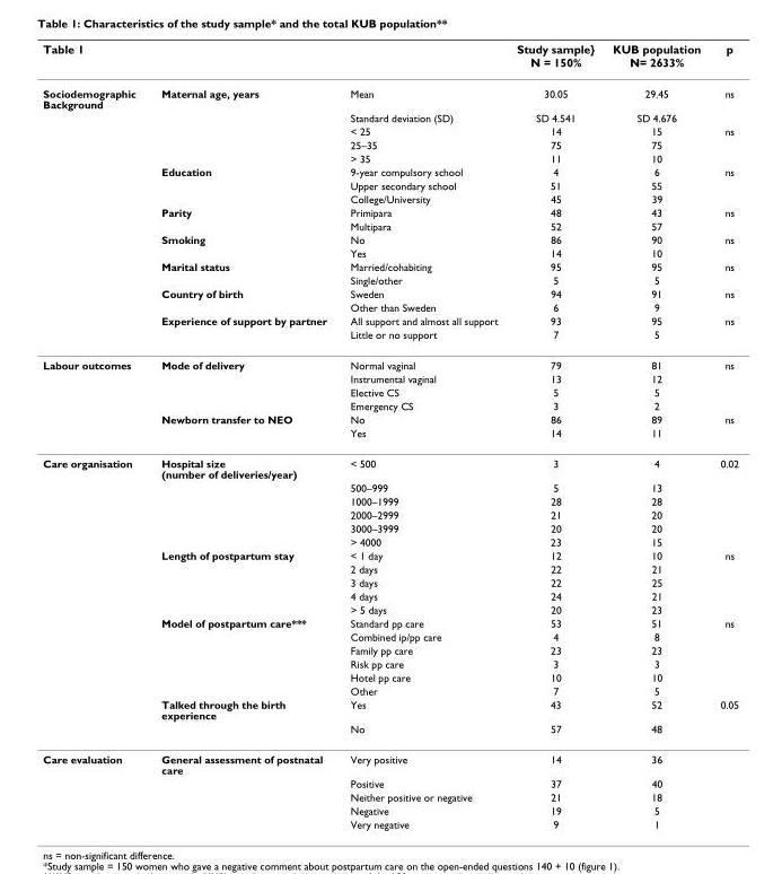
<table><thead><tr><td>Table 1</td><td></td><td></td><td>Study sample} N = 150%</td><td>KUB population N= 2633%</td><td>p</td></tr></thead><tbody><tr><td rowspan="18">Sociodemographic Background</td><td>Maternal age, years</td><td>Mean</td><td>30.05</td><td>29.45</td><td>ns</td></tr><tr><td></td><td>Standard deviation (SD)</td><td>SD 4.541</td><td>SD 4.676</td><td></td></tr><tr><td></td><td>&lt; 25</td><td>14</td><td>15</td><td>ns</td></tr><tr><td></td><td>25–35</td><td>75</td><td>75</td><td></td></tr><tr><td></td><td>&gt; 35</td><td>11</td><td>10</td><td></td></tr><tr><td>Education</td><td>9-year compulsory school</td><td>4</td><td>6</td><td>ns</td></tr><tr><td></td><td>Upper secondary school</td><td>51</td><td>55</td><td></td></tr><tr><td></td><td>College/University</td><td>45</td><td>39</td><td></td></tr><tr><td>Parity</td><td>Primipara</td><td>48</td><td>43</td><td>ns</td></tr><tr><td></td><td>Multipara</td><td>52</td><td>57</td><td></td></tr><tr><td>Smoking</td><td>No</td><td>86</td><td>90</td><td>ns</td></tr><tr><td></td><td>Yes</td><td>14</td><td>10</td><td></td></tr><tr><td>Marital status</td><td>Married/cohabiting</td><td>95</td><td>95</td><td>ns</td></tr><tr><td></td><td>Single/other</td><td>5</td><td>5</td><td></td></tr><tr><td>Country of birth</td><td>Sweden</td><td>94</td><td>91</td><td>ns</td></tr><tr><td></td><td>Other than Sweden</td><td>6</td><td>9</td><td></td></tr><tr><td>Experience of support by partner</td><td>All support and almost all support</td><td>93</td><td>95</td><td>ns</td></tr><tr><td></td><td>Little or no support</td><td>7</td><td>5</td><td></td></tr><tr><td rowspan="6">Labour outcomes</td><td>Mode of delivery</td><td>Normal vaginal</td><td>79</td><td>81</td><td>ns</td></tr><tr><td></td><td>Instrumental vaginal</td><td>13</td><td>12</td><td></td></tr><tr><td></td><td>Elective CS</td><td>5</td><td>5</td><td></td></tr><tr><td></td><td>Emergency CS</td><td>3</td><td>2</td><td></td></tr><tr><td>Newborn transfer to NEO</td><td>No</td><td>86</td><td>89</td><td>ns</td></tr><tr><td></td><td>Yes</td><td>14</td><td>11</td><td></td></tr><tr><td rowspan="19">Care organisation</td><td>Hospital size (number of deliveries/year)</td><td>&lt; 500</td><td>3</td><td>4</td><td>0.02</td></tr><tr><td></td><td>500–999</td><td>5</td><td>13</td><td></td></tr><tr><td></td><td>1000–1999</td><td>28</td><td>28</td><td></td></tr><tr><td></td><td>2000–2999</td><td>21</td><td>20</td><td></td></tr><tr><td></td><td>3000–3999</td><td>20</td><td>20</td><td></td></tr><tr><td></td><td>&gt; 4000</td><td>23</td><td>15</td><td></td></tr><tr><td>Length of postpartum stay</td><td>&lt; 1 day</td><td>12</td><td>10</td><td>ns</td></tr><tr><td></td><td>2 days</td><td>22</td><td>21</td><td></td></tr><tr><td></td><td>3 days</td><td>22</td><td>25</td><td></td></tr><tr><td></td><td>4 days</td><td>24</td><td>21</td><td></td></tr><tr><td></td><td>&gt; 5 days</td><td>20</td><td>23</td><td></td></tr><tr><td>Model of postpartum care***</td><td>Standard pp care</td><td>53</td><td>51</td><td>ns</td></tr><tr><td></td><td>Combined ip/pp care</td><td>4</td><td>8</td><td></td></tr><tr><td></td><td>Family pp care</td><td>23</td><td>23</td><td></td></tr><tr><td></td><td>Risk pp care</td><td>3</td><td>3</td><td></td></tr><tr><td></td><td>Hotel pp care</td><td>10</td><td>10</td><td></td></tr><tr><td></td><td>Other</td><td>7</td><td>5</td><td></td></tr><tr><td>Talked through the birth experience</td><td>Yes</td><td>43</td><td>52</td><td>0.05</td></tr><tr><td></td><td>No</td><td>57</td><td>48</td><td></td></tr><tr><td rowspan="5">Care evaluation</td><td>General assessment of postnatal care</td><td>Very positive</td><td>14</td><td>36</td><td></td></tr><tr><td></td><td>Positive</td><td>37</td><td>40</td><td></td></tr><tr><td></td><td>Neither positive or negative</td><td>21</td><td>18</td><td></td></tr><tr><td></td><td>Negative</td><td>19</td><td>5</td><td></td></tr><tr><td></td><td>Very negative</td><td>9</td><td>1</td><td></td></tr></tbody></table>